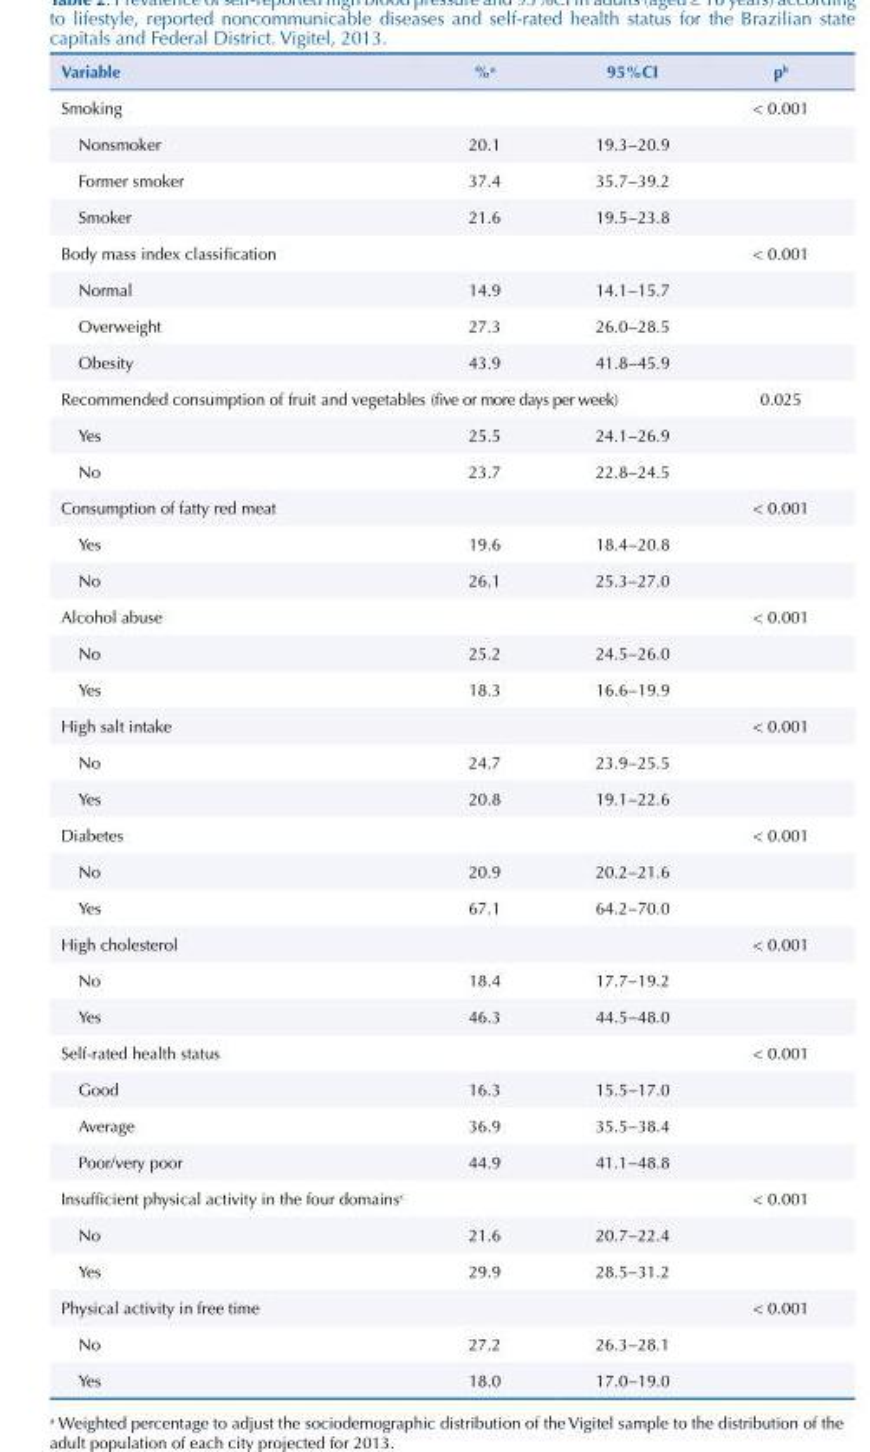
<table><thead><tr><td>Variable</td><td>%<sup>a</sup></td><td>95%CI</td><td>p<sup>b</sup></td></tr></thead><tbody><tr><td>Smoking</td><td></td><td></td><td>&lt; 0.001</td></tr><tr><td>Nonsmoker</td><td>20.1</td><td>19.3−20.9</td><td></td></tr><tr><td>Former smoker</td><td>37.4</td><td>35.7−39.2</td><td></td></tr><tr><td>Smoker</td><td>21.6</td><td>19.5−23.8</td><td></td></tr><tr><td>Body mass index classification</td><td></td><td></td><td>&lt; 0.001</td></tr><tr><td>Normal</td><td>14.9</td><td>14.1−15.7</td><td></td></tr><tr><td>Overweight</td><td>27.3</td><td>26.0−28.5</td><td></td></tr><tr><td>Obesity</td><td>43.9</td><td>41.8−45.9</td><td></td></tr><tr><td colspan="3">Recommended consumption of fruit and vegetables (five or more days per week)</td><td>0.025</td></tr><tr><td>Yes</td><td>25.5</td><td>24.1−26.9</td><td></td></tr><tr><td>No</td><td>23.7</td><td>22.8−24.5</td><td></td></tr><tr><td>Consumption of fatty red meat</td><td></td><td></td><td>&lt; 0.001</td></tr><tr><td>Yes</td><td>19.6</td><td>18.4−20.8</td><td></td></tr><tr><td>No</td><td>26.1</td><td>25.3−27.0</td><td></td></tr><tr><td>Alcohol abuse</td><td></td><td></td><td>&lt; 0.001</td></tr><tr><td>No</td><td>25.2</td><td>24.5−26.0</td><td></td></tr><tr><td>Yes</td><td>18.3</td><td>16.6−19.9</td><td></td></tr><tr><td>High salt intake</td><td></td><td></td><td>&lt; 0.001</td></tr><tr><td>No</td><td>24.7</td><td>23.9−25.5</td><td></td></tr><tr><td>Yes</td><td>20.8</td><td>19.1−22.6</td><td></td></tr><tr><td>Diabetes</td><td></td><td></td><td>&lt; 0.001</td></tr><tr><td>No</td><td>20.9</td><td>20.2−21.6</td><td></td></tr><tr><td>Yes</td><td>67.1</td><td>64.2−70.0</td><td></td></tr><tr><td>High cholesterol</td><td></td><td></td><td>&lt; 0.001</td></tr><tr><td>No</td><td>18.4</td><td>17.7−19.2</td><td></td></tr><tr><td>Yes</td><td>46.3</td><td>44.5−48.0</td><td></td></tr><tr><td>Self-rated health status</td><td></td><td></td><td>&lt; 0.001</td></tr><tr><td>Good</td><td>16.3</td><td>15.5−17.0</td><td></td></tr><tr><td>Average</td><td>36.9</td><td>35.5−38.4</td><td></td></tr><tr><td>Poor/very poor</td><td>44.9</td><td>41.1−48.8</td><td></td></tr><tr><td colspan="3">Insufficient physical activity in the four domains<sup>c</sup></td><td>&lt; 0.001</td></tr><tr><td>No</td><td>21.6</td><td>20.7−22.4</td><td></td></tr><tr><td>Yes</td><td>29.9</td><td>28.5−31.2</td><td></td></tr><tr><td>Physical activity in free time</td><td></td><td></td><td>&lt; 0.001</td></tr><tr><td>No</td><td>27.2</td><td>26.3−28.1</td><td></td></tr><tr><td>Yes</td><td>18.0</td><td>17.0−19.0</td><td></td></tr></tbody></table>